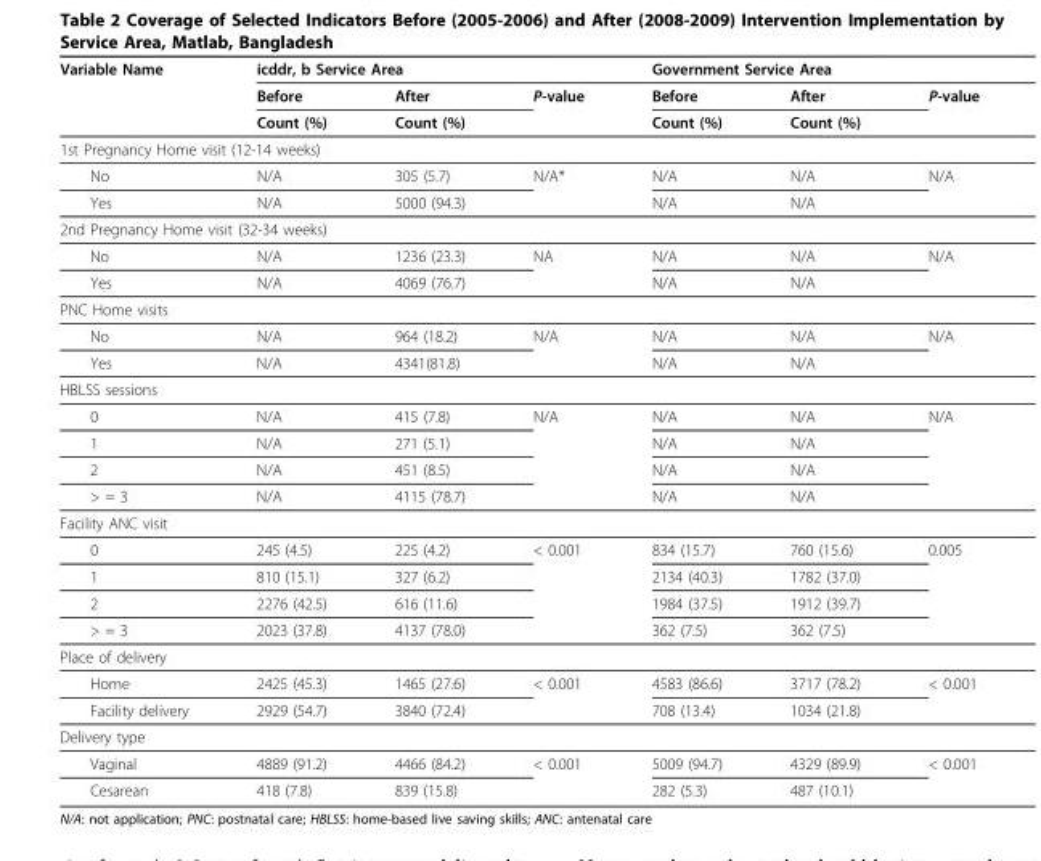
<table><thead><tr><td rowspan="3">Variable Name</td><td colspan="3">icddr, b Service Area</td><td colspan="3">Government Service Area</td></tr><tr><td rowspan="2">Before Count (%)</td><td rowspan="2">After Count (%)</td><td rowspan="2">P-value</td><td rowspan="2">Before Count (%)</td><td rowspan="2">After Count (%)</td><td rowspan="2">P-value</td></tr><tr></tr></thead><tbody><tr><td colspan="7">1st Pregnancy Home visit (12-14 weeks)</td></tr><tr><td>No</td><td>N/A</td><td>305 (5.7)</td><td>N/A*</td><td>N/A</td><td>N/A</td><td>N/A</td></tr><tr><td>Yes</td><td>N/A</td><td>5000 (94.3)</td><td></td><td>N/A</td><td>N/A</td><td></td></tr><tr><td colspan="7">2nd Pregnancy Home visit (32-34 weeks)</td></tr><tr><td>No</td><td>N/A</td><td>1236 (23.3)</td><td>NA</td><td>N/A</td><td>N/A</td><td>N/A</td></tr><tr><td>Yes</td><td>N/A</td><td>4069 (76.7)</td><td></td><td>N/A</td><td>N/A</td><td></td></tr><tr><td colspan="7">PNC Home visits</td></tr><tr><td>No</td><td>N/A</td><td>964 (18.2)</td><td>N/A</td><td>N/A</td><td>N/A</td><td>N/A</td></tr><tr><td>Yes</td><td>N/A</td><td>4341(81.8)</td><td></td><td>N/A</td><td>N/A</td><td></td></tr><tr><td colspan="7">HBLSS sessions</td></tr><tr><td>0</td><td>N/A</td><td>415 (7.8)</td><td>N/A</td><td>N/A</td><td>N/A</td><td>N/A</td></tr><tr><td>1</td><td>N/A</td><td>271 (5.1)</td><td></td><td>N/A</td><td>N/A</td><td></td></tr><tr><td>2</td><td>N/A</td><td>451 (8.5)</td><td></td><td>N/A</td><td>N/A</td><td></td></tr><tr><td>&gt; = 3</td><td>N/A</td><td>4115 (78.7)</td><td></td><td>N/A</td><td>N/A</td><td></td></tr><tr><td colspan="7">Facility ANC visit</td></tr><tr><td>0</td><td>245 (4.5)</td><td>225 (4.2)</td><td>&lt; 0.001</td><td>834 (15.7)</td><td>760 (15.6)</td><td>0.005</td></tr><tr><td>1</td><td>810 (15.1)</td><td>327 (6.2)</td><td></td><td>2134 (40.3)</td><td>1782 (37.0)</td><td></td></tr><tr><td>2</td><td>2276 (42.5)</td><td>616 (11.6)</td><td></td><td>1984 (37.5)</td><td>1912 (39.7)</td><td></td></tr><tr><td>&gt; = 3</td><td>2023 (37.8)</td><td>4137 (78.0)</td><td></td><td>362 (7.5)</td><td>362 (7.5)</td><td></td></tr><tr><td colspan="7">Place of delivery</td></tr><tr><td>Home</td><td>2425 (45.3)</td><td>1465 (27.6)</td><td>&lt; 0.001</td><td>4583 (86.6)</td><td>3717 (78.2)</td><td>&lt; 0.001</td></tr><tr><td>Facility delivery</td><td>2929 (54.7)</td><td>3840 (72.4)</td><td></td><td>708 (13.4)</td><td>1034 (21.8)</td><td></td></tr><tr><td colspan="7">Delivery type</td></tr><tr><td>Vaginal</td><td>4889 (91.2)</td><td>4466 (84.2)</td><td>&lt; 0.001</td><td>5009 (94.7)</td><td>4329 (89.9)</td><td>&lt; 0.001</td></tr><tr><td>Cesarean</td><td>418 (7.8)</td><td>839 (15.8)</td><td></td><td>282 (5.3)</td><td>487 (10.1)</td><td></td></tr></tbody></table>